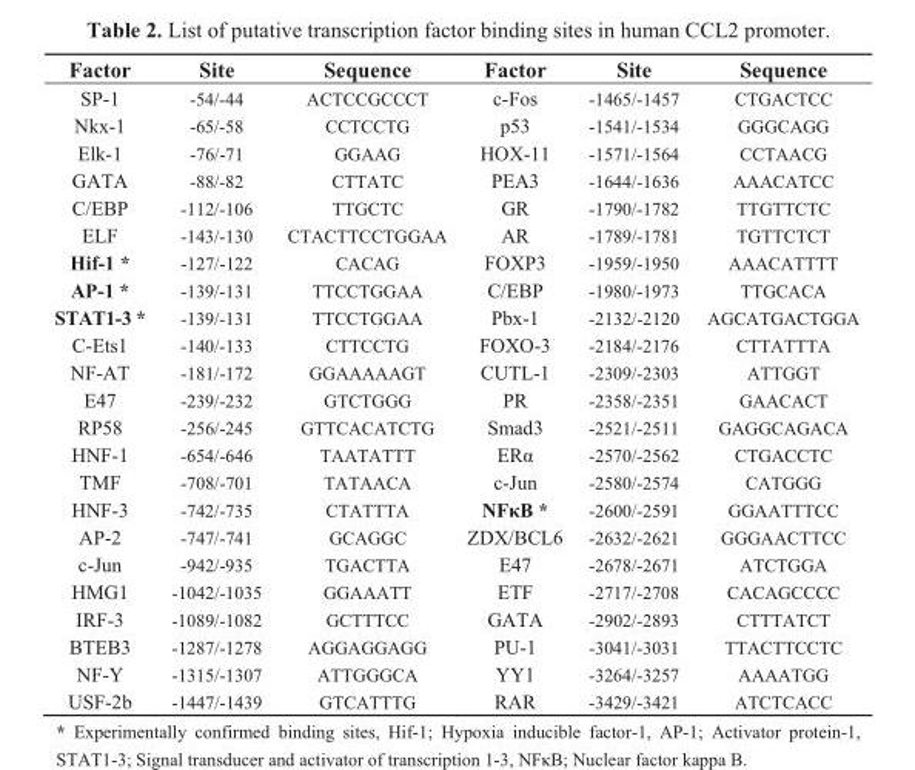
<table><thead><tr><td>Factor</td><td>Site</td><td>Sequence</td><td>Factor</td><td>Site</td><td>Sequence</td></tr></thead><tbody><tr><td>SP-1</td><td>-54/-44</td><td>ACTCCGCCCT</td><td>c-Fos</td><td>-1465/-1457</td><td>CTGACTCC</td></tr><tr><td>Nkx-1</td><td>-65/-58</td><td>CCTCCTG</td><td>p53</td><td>-1541/-1534</td><td>GGGCAGG</td></tr><tr><td>Elk-1</td><td>-76/-71</td><td>GGAAG</td><td>HOX-11</td><td>-1571/-1564</td><td>CCTAACG</td></tr><tr><td>GATA</td><td>-88/-82</td><td>CTTATC</td><td>PEA3</td><td>-1644/-1636</td><td>AAACATCC</td></tr><tr><td>C/EBP</td><td>-112/-106</td><td>TTGCTC</td><td>GR</td><td>-1790/-1782</td><td>TTGTTCTC</td></tr><tr><td>ELF</td><td>-143/-130</td><td>CTACTTCCTGGAA</td><td>AR</td><td>-1789/-1781</td><td>TGTTCTCT</td></tr><tr><td>Hif-1 *</td><td>-127/-122</td><td>CACAG</td><td>FOXP3</td><td>-1959/-1950</td><td>AAACATTTT</td></tr><tr><td>AP-1 *</td><td>-139/-131</td><td>TTCCTGGAA</td><td>C/EBP</td><td>-1980/-1973</td><td>TTGCACA</td></tr><tr><td>STAT1-3 *</td><td>-139/-131</td><td>TTCCTGGAA</td><td>Pbx-1</td><td>-2132/-2120</td><td>AGCATGACTGGA</td></tr><tr><td>C-Ets1</td><td>-140/-133</td><td>CTTCCTG</td><td>FOXO-3</td><td>-2184/-2176</td><td>CTTATTTA</td></tr><tr><td>NF-AT</td><td>-181/-172</td><td>GGAAAAAGT</td><td>CUTL-1</td><td>-2309/-2303</td><td>ATTGGT</td></tr><tr><td>E47</td><td>-239/-232</td><td>GTCTGGG</td><td>PR</td><td>-2358/-2351</td><td>GAACACT</td></tr><tr><td>RP58</td><td>-256/-245</td><td>GTTCACATCTG</td><td>Smad3</td><td>-2521/-2511</td><td>GAGGCAGACA</td></tr><tr><td>HNF-1</td><td>-654/-646</td><td>TAATATTT</td><td>ERα</td><td>-2570/-2562</td><td>CTGACCTC</td></tr><tr><td>TMF</td><td>-708/-701</td><td>TATAACA</td><td>c-Jun</td><td>-2580/-2574</td><td>CATGGG</td></tr><tr><td>HNF-3</td><td>-742/-735</td><td>CTATTTA</td><td>NFκB *</td><td>-2600/-2591</td><td>GGAATTTCC</td></tr><tr><td>AP-2</td><td>-747/-741</td><td>GCAGGC</td><td>ZDX/BCL6</td><td>-2632/-2621</td><td>GGGAACTTCC</td></tr><tr><td>c-Jun</td><td>-942/-935</td><td>TGACTTA</td><td>E47</td><td>-2678/-2671</td><td>ATCTGGA</td></tr><tr><td>HMG1</td><td>-1042/-1035</td><td>GGAAATT</td><td>ETF</td><td>-2717/-2708</td><td>CACAGCCCC</td></tr><tr><td>IRF-3</td><td>-1089/-1082</td><td>GCTTTCC</td><td>GATA</td><td>-2902/-2893</td><td>CTTTATCT</td></tr><tr><td>BTEB3</td><td>-1287/-1278</td><td>AGGAGGAGG</td><td>PU-1</td><td>-3041/-3031</td><td>TTACTTCCTC</td></tr><tr><td>NF-Y</td><td>-1315/-1307</td><td>ATTGGGCA</td><td>YY1</td><td>-3264/-3257</td><td>AAAATGG</td></tr><tr><td>USF-2b</td><td>-1447/-1439</td><td>GTCATTTG</td><td>RAR</td><td>-3429/-3421</td><td>ATCTCACC</td></tr></tbody></table>